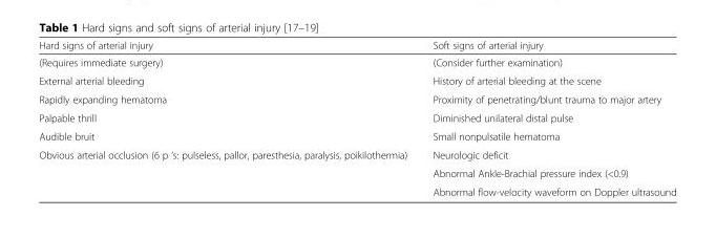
<table><thead><tr><td>Hard signs of arterial injury</td><td>Soft signs of arterial injury</td></tr></thead><tbody><tr><td>(Requires immediate surgery)</td><td>(Consider further examination)</td></tr><tr><td>External arterial bleeding</td><td>History of arterial bleeding at the scene</td></tr><tr><td>Rapidly expanding hematoma</td><td>Proximity of penetrating/blunt trauma to major artery</td></tr><tr><td>Palpable thrill</td><td>Diminished unilateral distal pulse</td></tr><tr><td>Audible bruit</td><td>Small nonpulsatile hematoma</td></tr><tr><td rowspan="3">Obvious arterial occlusion (6 p ‘s: pulseless, pallor, paresthesia, paralysis, poikilothermia)</td><td>Neurologic deficit</td></tr><tr><td>Abnormal Ankle-Brachial pressure index (&lt;0.9)</td></tr><tr><td>Abnormal flow-velocity waveform on Doppler ultrasound</td></tr></tbody></table>